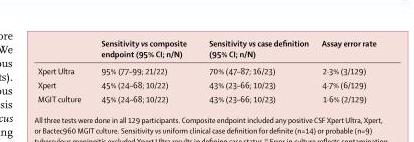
<table><thead><tr><td></td><td>Sensitivity vs composite endpoint (95% CI; n/N)</td><td>Sensitivity vs case definition (95% CI; n/N)</td><td>Assay error rate</td></tr></thead><tbody><tr><td>Xpert Ultra</td><td>95% (77–99; 21/22)</td><td>70% (47–87; 16/23)</td><td>2·3% (3/129)</td></tr><tr><td>Xpert</td><td>45% (24–68; 10/22)</td><td>43% (23–66; 10/23)</td><td>4·7% (6/129)</td></tr><tr><td>MGIT culture</td><td>45% (24–68; 10/22)</td><td>43% (23–66; 10/23)</td><td>1·6% (2/129)</td></tr></tbody></table>